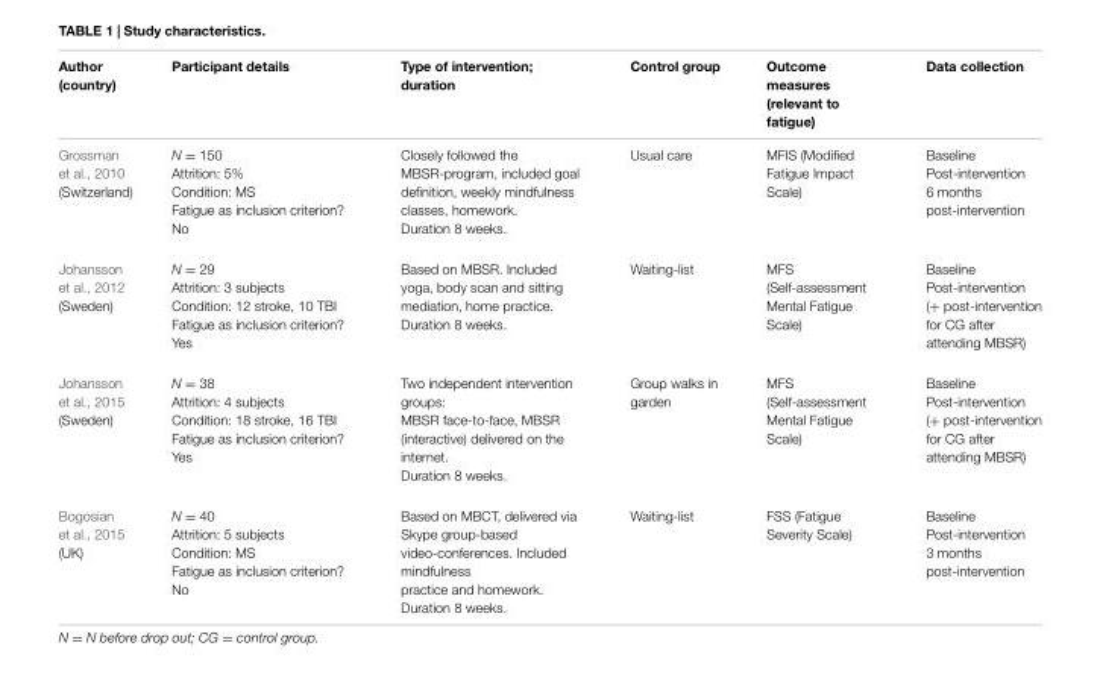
<table><thead><tr><td>Author (country)</td><td>Participant details</td><td>Type of intervention; duration</td><td>Control group</td><td>Outcome measures (relevant to fatigue)</td><td>Data collection</td></tr></thead><tbody><tr><td>Grossman et al., 2010 (Switzerland)</td><td>N = 150 Attrition: 5% Condition: MS Fatigue as inclusion criterion? No</td><td>Closely followed the MBSR-program, included goal definition, weekly mindfulness classes, homework. Duration 8 weeks.</td><td>Usual care</td><td>MFIS (Modified Fatigue Impact Scale)</td><td>Baseline Post-intervention 6 months post-intervention</td></tr><tr><td>Johansson et al., 2012 (Sweden)</td><td>N = 29 Attrition: 3 subjects Condition: 12 stroke, 10 TBI Fatigue as inclusion criterion? Yes</td><td>Based on MBSR. Included yoga, body scan and sitting mediation, home practice. Duration 8 weeks.</td><td>Waiting-list</td><td>MFS (Self-assessment Mental Fatigue Scale)</td><td>Baseline Post-intervention (+ post-intervention for CG after attending MBSR)</td></tr><tr><td>Johansson et al., 2015 (Sweden)</td><td>N = 38 Attrition: 4 subjects Condition: 18 stroke, 16 TBI Fatigue as inclusion criterion? Yes</td><td>Two independent intervention groups: MBSR face-to-face, MBSR (interactive) delivered on the internet. Duration 8 weeks.</td><td>Group walks in garden</td><td>MFS (Self-assessment Mental Fatigue Scale)</td><td>Baseline Post-intervention (+ post-intervention for CG after attending MBSR)</td></tr><tr><td>Bogosian et al., 2015 (UK)</td><td>N = 40 Attrition: 5 subjects Condition: MS Fatigue as inclusion criterion? No</td><td>Based on MBCT, delivered via Skype group-based video-conferences. Included mindfulness practice and homework. Duration 8 weeks.</td><td>Waiting-list</td><td>FSS (Fatigue Severity Scale)</td><td>Baseline Post-intervention 3 months post-intervention</td></tr></tbody></table>